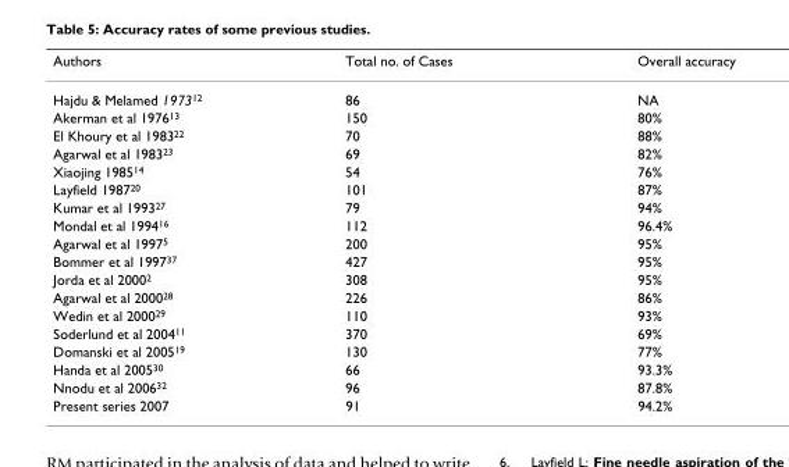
<table><thead><tr><td>Authors</td><td>Total no. of Cases</td><td>Overall accuracy</td></tr></thead><tbody><tr><td>Hajdu &amp; Melamed 1973<sup>12</sup></td><td>86</td><td>NA</td></tr><tr><td>Akerman et al 1976<sup>13</sup></td><td>150</td><td>80%</td></tr><tr><td>El Khoury et al 1983<sup>22</sup></td><td>70</td><td>88%</td></tr><tr><td>Agarwal et al 1983<sup>23</sup></td><td>69</td><td>82%</td></tr><tr><td>Xiaojing 1985<sup>14</sup></td><td>54</td><td>76%</td></tr><tr><td>Layfield 1987<sup>20</sup></td><td>101</td><td>87%</td></tr><tr><td>Kumar et al 1993<sup>27</sup></td><td>79</td><td>94%</td></tr><tr><td>Mondal et al 1994<sup>16</sup></td><td>112</td><td>96.4%</td></tr><tr><td>Agarwal et al 1997<sup>5</sup></td><td>200</td><td>95%</td></tr><tr><td>Bommer et al 1997<sup>37</sup></td><td>427</td><td>95%</td></tr><tr><td>Jorda et al 2000<sup>2</sup></td><td>308</td><td>95%</td></tr><tr><td>Agarwal et al 2000<sup>28</sup></td><td>226</td><td>86%</td></tr><tr><td>Wedin et al 2000<sup>29</sup></td><td>110</td><td>93%</td></tr><tr><td>Soderlund et al 2004<sup>11</sup></td><td>370</td><td>69%</td></tr><tr><td>Domanski et al 2005<sup>19</sup></td><td>130</td><td>77%</td></tr><tr><td>Handa et al 2005<sup>30</sup></td><td>66</td><td>93.3%</td></tr><tr><td>Nnodu et al 2006<sup>32</sup></td><td>96</td><td>87.8%</td></tr><tr><td>Present series 2007</td><td>91</td><td>94.2%</td></tr></tbody></table>